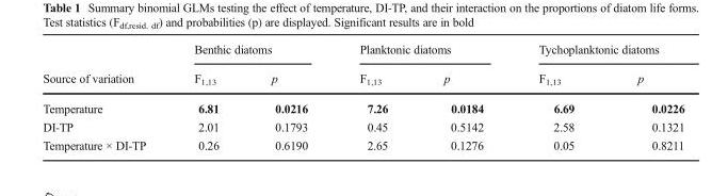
<table><thead><tr><td rowspan="2">Source of variation</td><td colspan="2">Benthic diatoms</td><td colspan="2">Planktonic diatoms</td><td colspan="2">Tychoplanktonic diatoms</td></tr><tr><td>F<sub>1,13</sub></td><td>p</td><td>F<sub>1,13</sub></td><td>p</td><td>F<sub>1,13</sub></td><td>p</td></tr></thead><tbody><tr><td>Temperature</td><td>6.81</td><td>0.0216</td><td>7.26</td><td>0.0184</td><td>6.69</td><td>0.0226</td></tr><tr><td>DI-TP</td><td>2.01</td><td>0.1793</td><td>0.45</td><td>0.5142</td><td>2.58</td><td>0.1321</td></tr><tr><td>Temperature × DI-TP</td><td>0.26</td><td>0.6190</td><td>2.65</td><td>0.1276</td><td>0.05</td><td>0.8211</td></tr></tbody></table>